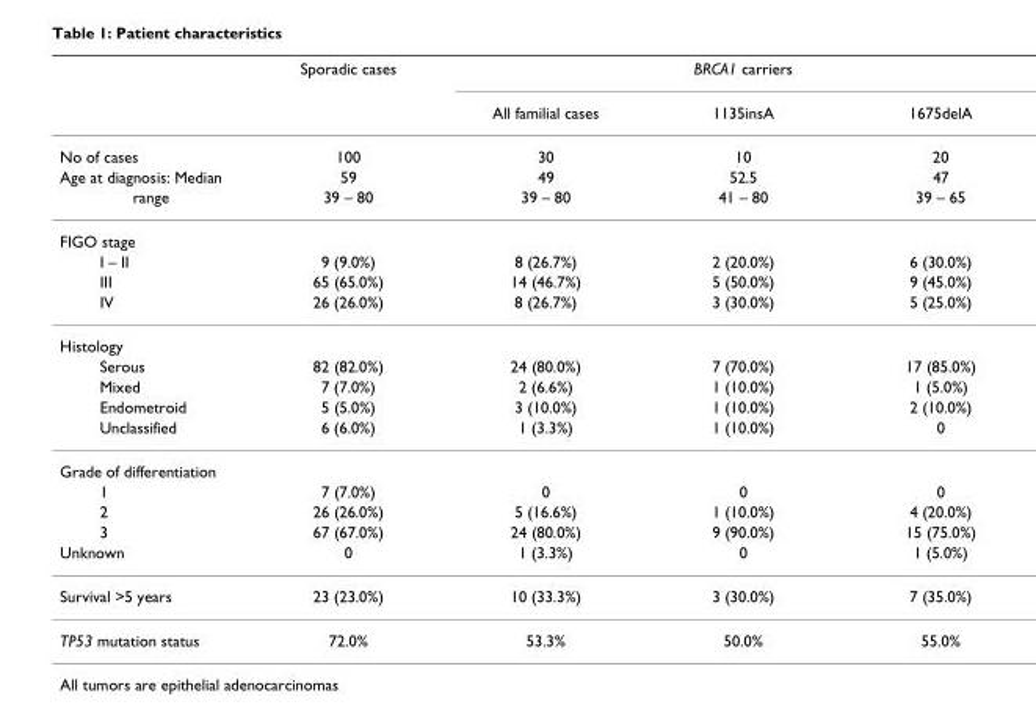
<table><thead><tr><td rowspan="2"></td><td rowspan="2">Sporadic cases</td><td colspan="3">BRCA1 carriers</td></tr><tr><td>All familial cases</td><td>1135insA</td><td>1675delA</td></tr></thead><tbody><tr><td>No of cases</td><td>100</td><td>30</td><td>10</td><td>20</td></tr><tr><td>Age at diagnosis: Median</td><td>59</td><td>49</td><td>52.5</td><td>47</td></tr><tr><td>range</td><td>39 – 80</td><td>39 – 80</td><td>41 – 80</td><td>39 – 65</td></tr><tr><td colspan="5">FIGO stage</td></tr><tr><td>I – II</td><td>9 (9.0%)</td><td>8 (26.7%)</td><td>2 (20.0%)</td><td>6 (30.0%)</td></tr><tr><td>III</td><td>65 (65.0%)</td><td>14 (46.7%)</td><td>5 (50.0%)</td><td>9 (45.0%)</td></tr><tr><td>IV</td><td>26 (26.0%)</td><td>8 (26.7%)</td><td>3 (30.0%)</td><td>5 (25.0%)</td></tr><tr><td colspan="5">Histology</td></tr><tr><td>Serous</td><td>82 (82.0%)</td><td>24 (80.0%)</td><td>7 (70.0%)</td><td>17 (85.0%)</td></tr><tr><td>Mixed</td><td>7 (7.0%)</td><td>2 (6.6%)</td><td>1 (10.0%)</td><td>1 (5.0%)</td></tr><tr><td>Endometroid</td><td>5 (5.0%)</td><td>3 (10.0%)</td><td>1 (10.0%)</td><td>2 (10.0%)</td></tr><tr><td>Unclassified</td><td>6 (6.0%)</td><td>1 (3.3%)</td><td>1 (10.0%)</td><td>0</td></tr><tr><td colspan="5">Grade of differentiation</td></tr><tr><td>1</td><td>7 (7.0%)</td><td>0</td><td>0</td><td>0</td></tr><tr><td>2</td><td>26 (26.0%)</td><td>5 (16.6%)</td><td>1 (10.0%)</td><td>4 (20.0%)</td></tr><tr><td>3</td><td>67 (67.0%)</td><td>24 (80.0%)</td><td>9 (90.0%)</td><td>15 (75.0%)</td></tr><tr><td>Unknown</td><td>0</td><td>1 (3.3%)</td><td>0</td><td>1 (5.0%)</td></tr><tr><td>Survival &gt;5 years</td><td>23 (23.0%)</td><td>10 (33.3%)</td><td>3 (30.0%)</td><td>7 (35.0%)</td></tr><tr><td>TP53 mutation status</td><td>72.0%</td><td>53.3%</td><td>50.0%</td><td>55.0%</td></tr></tbody></table>